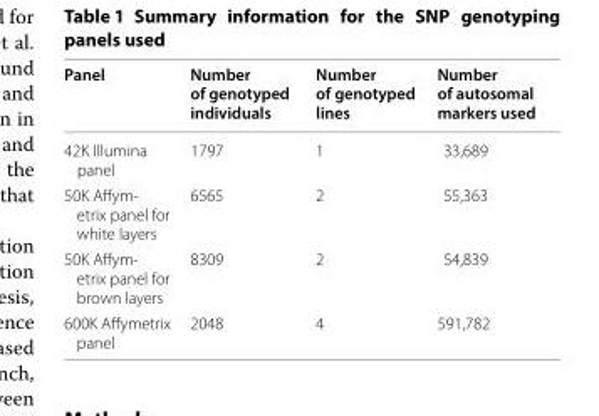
<table><thead><tr><td>Panel</td><td>Number of genotyped individuals</td><td>Number of genotyped lines</td><td>Number of autosomal markers used</td></tr></thead><tbody><tr><td>42K Illumina panel</td><td>1797</td><td>1</td><td>33,689</td></tr><tr><td>50K Affym‑ etrix panel for white layers</td><td>6565</td><td>2</td><td>55,363</td></tr><tr><td>50K Affym‑ etrix panel for brown layers</td><td>8309</td><td>2</td><td>54,839</td></tr><tr><td>600K Affymetrix panel</td><td>2048</td><td>4</td><td>591,782</td></tr></tbody></table>